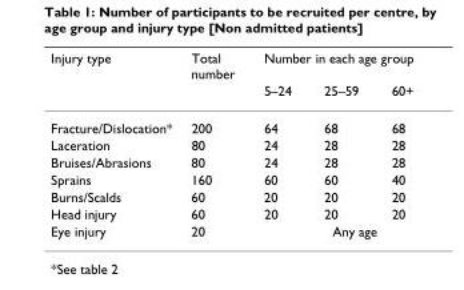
<table><thead><tr><td rowspan="2">Injury type</td><td rowspan="2">Total number</td><td colspan="3">Number in each age group</td></tr><tr><td>5–24</td><td>25–59</td><td>60+</td></tr></thead><tbody><tr><td>Fracture/Dislocation*</td><td>200</td><td>64</td><td>68</td><td>68</td></tr><tr><td>Laceration</td><td>80</td><td>24</td><td>28</td><td>28</td></tr><tr><td>Bruises/Abrasions</td><td>80</td><td>24</td><td>28</td><td>28</td></tr><tr><td>Sprains</td><td>160</td><td>60</td><td>60</td><td>40</td></tr><tr><td>Burns/Scalds</td><td>60</td><td>20</td><td>20</td><td>20</td></tr><tr><td>Head injury</td><td>60</td><td>20</td><td>20</td><td>20</td></tr><tr><td>Eye injury</td><td>20</td><td colspan="3">Any age</td></tr></tbody></table>